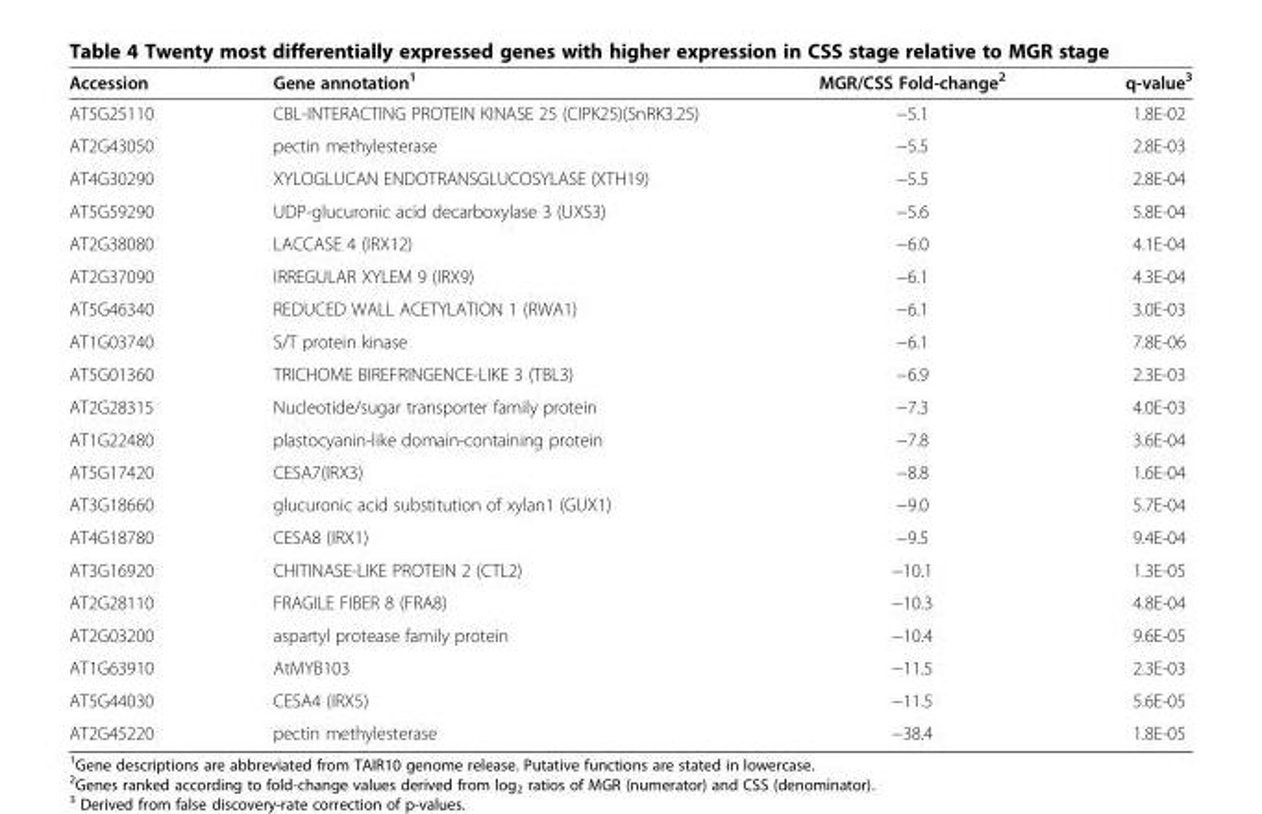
<table><thead><tr><td>Accession</td><td>Gene annotation<sup>1</sup></td><td>MGR/CSS Fold-change<sup>2</sup></td><td>q-value<sup>3</sup></td></tr></thead><tbody><tr><td>AT5G25110</td><td>CBL-INTERACTING PROTEIN KINASE 25 (CIPK25)(SnRK3.25)</td><td>−5.1</td><td>1.8E-02</td></tr><tr><td>AT2G43050</td><td>pectin methylesterase</td><td>−5.5</td><td>2.8E-03</td></tr><tr><td>AT4G30290</td><td>XYLOGLUCAN ENDOTRANSGLUCOSYLASE (XTH19)</td><td>−5.5</td><td>2.8E-04</td></tr><tr><td>AT5G59290</td><td>UDP-glucuronic acid decarboxylase 3 (UXS3)</td><td>−5.6</td><td>5.8E-04</td></tr><tr><td>AT2G38080</td><td>LACCASE 4 (IRX12)</td><td>−6.0</td><td>4.1E-04</td></tr><tr><td>AT2G37090</td><td>IRREGULAR XYLEM 9 (IRX9)</td><td>−6.1</td><td>4.3E-04</td></tr><tr><td>AT5G46340</td><td>REDUCED WALL ACETYLATION 1 (RWA1)</td><td>−6.1</td><td>3.0E-03</td></tr><tr><td>AT1G03740</td><td>S/T protein kinase</td><td>−6.1</td><td>7.8E-06</td></tr><tr><td>AT5G01360</td><td>TRICHOME BIREFRINGENCE-LIKE 3 (TBL3)</td><td>−6.9</td><td>2.3E-03</td></tr><tr><td>AT2G28315</td><td>Nucleotide/sugar transporter family protein</td><td>−7.3</td><td>4.0E-03</td></tr><tr><td>AT1G22480</td><td>plastocyanin-like domain-containing protein</td><td>−7.8</td><td>3.6E-04</td></tr><tr><td>AT5G17420</td><td>CESA7(IRX3)</td><td>−8.8</td><td>1.6E-04</td></tr><tr><td>AT3G18660</td><td>glucuronic acid substitution of xylan1 (GUX1)</td><td>−9.0</td><td>5.7E-04</td></tr><tr><td>AT4G18780</td><td>CESA8 (IRX1)</td><td>−9.5</td><td>9.4E-04</td></tr><tr><td>AT3G16920</td><td>CHITINASE-LIKE PROTEIN 2 (CTL2)</td><td>−10.1</td><td>1.3E-05</td></tr><tr><td>AT2G28110</td><td>FRAGILE FIBER 8 (FRA8)</td><td>−10.3</td><td>4.8E-04</td></tr><tr><td>AT2G03200</td><td>aspartyl protease family protein</td><td>−10.4</td><td>9.6E-05</td></tr><tr><td>AT1G63910</td><td>AtMYB103</td><td>−11.5</td><td>2.3E-03</td></tr><tr><td>AT5G44030</td><td>CESA4 (IRX5)</td><td>−11.5</td><td>5.6E-05</td></tr><tr><td>AT2G45220</td><td>pectin methylesterase</td><td>−38.4</td><td>1.8E-05</td></tr></tbody></table>